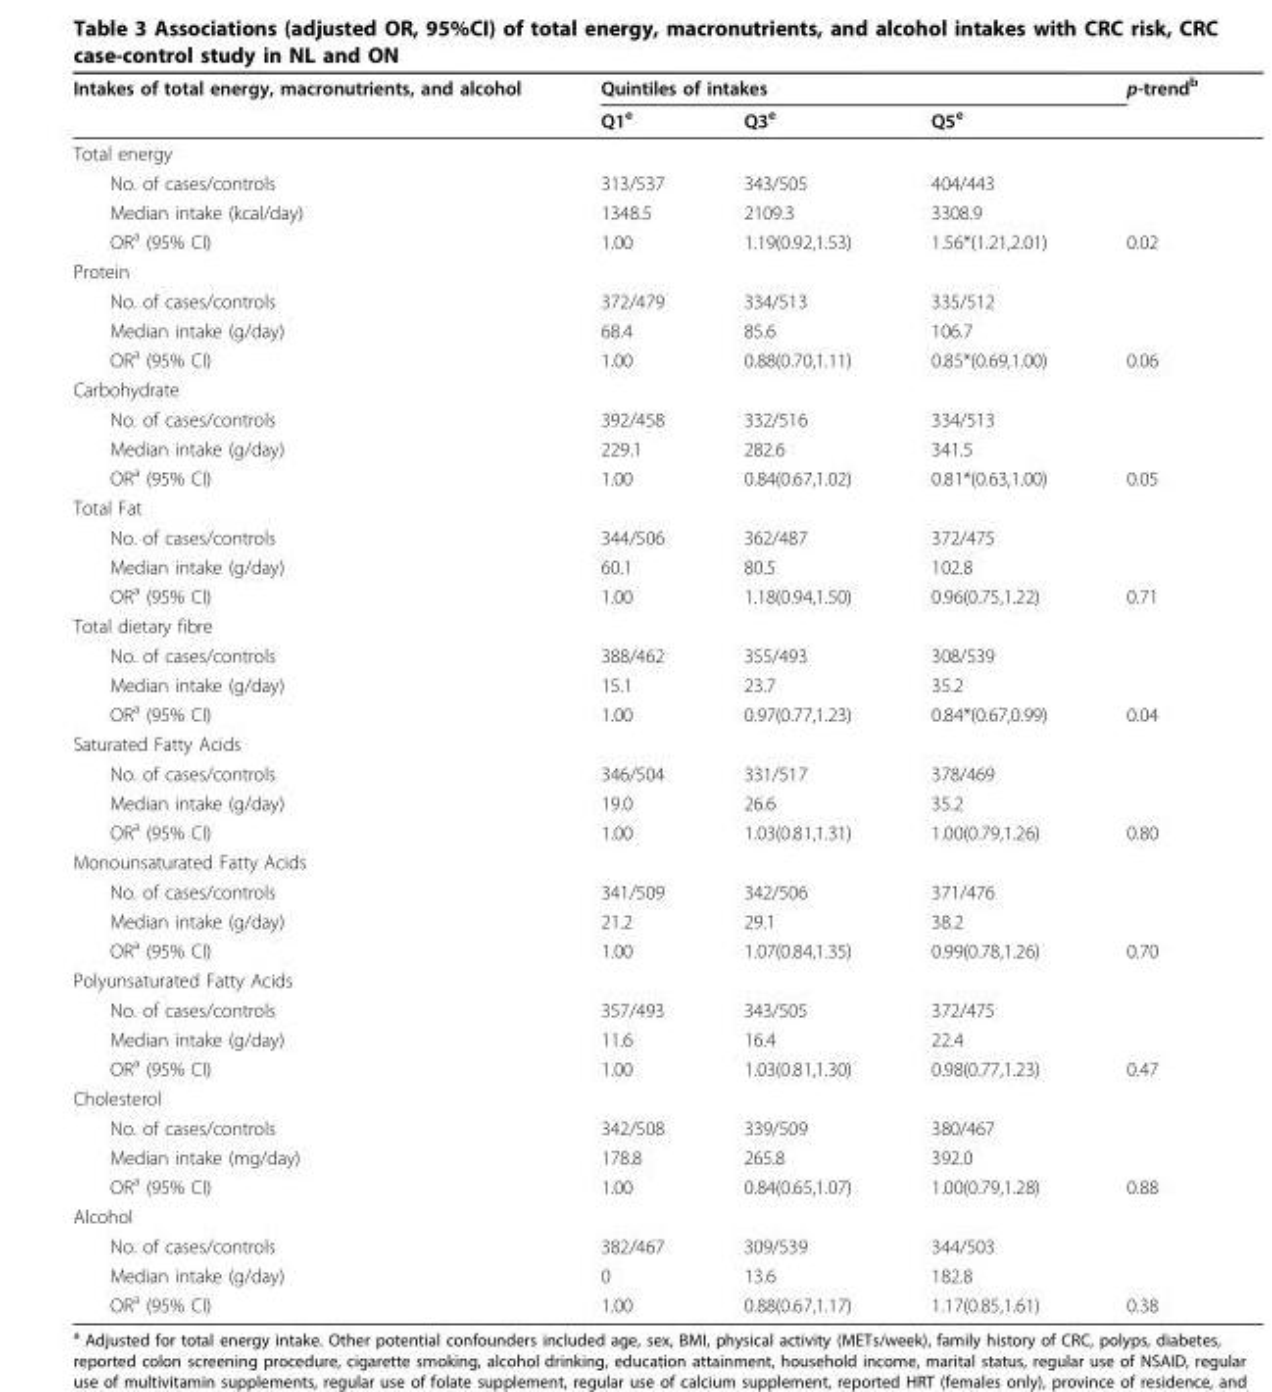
<table><thead><tr><td rowspan="2">Intakes of total energy, macronutrients, and alcohol</td><td colspan="3">Quintiles of intakes</td><td rowspan="2">p-trend<sup>b</sup></td></tr><tr><td>Q1<sup>e</sup></td><td>Q3<sup>e</sup></td><td>Q5<sup>e</sup></td></tr></thead><tbody><tr><td colspan="5">Total energy</td></tr><tr><td>No. of cases/controls</td><td>313/537</td><td>343/505</td><td>404/443</td><td></td></tr><tr><td>Median intake (kcal/day)</td><td>1348.5</td><td>2109.3</td><td>3308.9</td><td></td></tr><tr><td>OR<sup>a</sup> (95% CI)</td><td>1.00</td><td>1.19(0.92,1.53)</td><td>1.56*(1.21,2.01)</td><td>0.02</td></tr><tr><td colspan="5">Protein</td></tr><tr><td>No. of cases/controls</td><td>372/479</td><td>334/513</td><td>335/512</td><td></td></tr><tr><td>Median intake (g/day)</td><td>68.4</td><td>85.6</td><td>106.7</td><td></td></tr><tr><td>OR<sup>a</sup> (95% CI)</td><td>1.00</td><td>0.88(0.70,1.11)</td><td>0.85*(0.69,1.00)</td><td>0.06</td></tr><tr><td colspan="5">Carbohydrate</td></tr><tr><td>No. of cases/controls</td><td>392/458</td><td>332/516</td><td>334/513</td><td></td></tr><tr><td>Median intake (g/day)</td><td>229.1</td><td>282.6</td><td>341.5</td><td></td></tr><tr><td>OR<sup>a</sup> (95% CI)</td><td>1.00</td><td>0.84(0.67,1.02)</td><td>0.81*(0.63,1.00)</td><td>0.05</td></tr><tr><td colspan="5">Total Fat</td></tr><tr><td>No. of cases/controls</td><td>344/506</td><td>362/487</td><td>372/475</td><td></td></tr><tr><td>Median intake (g/day)</td><td>60.1</td><td>80.5</td><td>102.8</td><td></td></tr><tr><td>OR<sup>a</sup> (95% CI)</td><td>1.00</td><td>1.18(0.94,1.50)</td><td>0.96(0.75,1.22)</td><td>0.71</td></tr><tr><td colspan="5">Total dietary fibre</td></tr><tr><td>No. of cases/controls</td><td>388/462</td><td>355/493</td><td>308/539</td><td></td></tr><tr><td>Median intake (g/day)</td><td>15.1</td><td>23.7</td><td>35.2</td><td></td></tr><tr><td>OR<sup>a</sup> (95% CI)</td><td>1.00</td><td>0.97(0.77,1.23)</td><td>0.84*(0.67,0.99)</td><td>0.04</td></tr><tr><td colspan="5">Saturated Fatty Acids</td></tr><tr><td>No. of cases/controls</td><td>346/504</td><td>331/517</td><td>378/469</td><td></td></tr><tr><td>Median intake (g/day)</td><td>19.0</td><td>26.6</td><td>35.2</td><td></td></tr><tr><td>OR<sup>a</sup> (95% CI)</td><td>1.00</td><td>1.03(0.81,1.31)</td><td>1.00(0.79,1.26)</td><td>0.80</td></tr><tr><td colspan="5">Monounsaturated Fatty Acids</td></tr><tr><td>No. of cases/controls</td><td>341/509</td><td>342/506</td><td>371/476</td><td></td></tr><tr><td>Median intake (g/day)</td><td>21.2</td><td>29.1</td><td>38.2</td><td></td></tr><tr><td>OR<sup>a</sup> (95% CI)</td><td>1.00</td><td>1.07(0.84,1.35)</td><td>0.99(0.78,1.26)</td><td>0.70</td></tr><tr><td colspan="5">Polyunsaturated Fatty Acids</td></tr><tr><td>No. of cases/controls</td><td>357/493</td><td>343/505</td><td>372/475</td><td></td></tr><tr><td>Median intake (g/day)</td><td>11.6</td><td>16.4</td><td>22.4</td><td></td></tr><tr><td>OR<sup>a</sup> (95% CI)</td><td>1.00</td><td>1.03(0.81,1.30)</td><td>0.98(0.77,1.23)</td><td>0.47</td></tr><tr><td colspan="5">Cholesterol</td></tr><tr><td>No. of cases/controls</td><td>342/508</td><td>339/509</td><td>380/467</td><td></td></tr><tr><td>Median intake (mg/day)</td><td>178.8</td><td>265.8</td><td>392.0</td><td></td></tr><tr><td>OR<sup>a</sup> (95% CI)</td><td>1.00</td><td>0.84(0.65,1.07)</td><td>1.00(0.79,1.28)</td><td>0.88</td></tr><tr><td colspan="5">Alcohol</td></tr><tr><td>No. of cases/controls</td><td>382/467</td><td>309/539</td><td>344/503</td><td></td></tr><tr><td>Median intake (g/day)</td><td>0</td><td>13.6</td><td>182.8</td><td></td></tr><tr><td>OR<sup>a</sup> (95% CI)</td><td>1.00</td><td>0.88(0.67,1.17)</td><td>1.17(0.85,1.61)</td><td>0.38</td></tr></tbody></table>